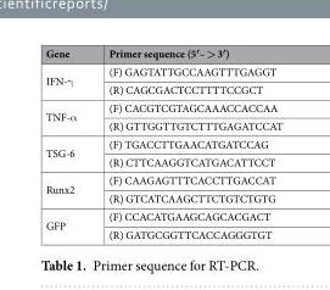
<table><thead><tr><td>Gene</td><td>Primer sequence (5′– &gt; 3′)</td></tr></thead><tbody><tr><td rowspan="2">IFN-γ</td><td>(F) GAGTATTGCCAAGTTTGAGGT</td></tr><tr><td>(R) CAGCGACTCCTTTTCCGCT</td></tr><tr><td rowspan="2">TNF-α</td><td>(F) CACGTCGTAGCAAACCACCAA</td></tr><tr><td>(R) GTTGGTTGTCTTTGAGATCCAT</td></tr><tr><td rowspan="2">TSG-6</td><td>(F) TGACCTTGAACATGATCCAG</td></tr><tr><td>(R) CTTCAAGGTCATGACATTCCT</td></tr><tr><td rowspan="2">Runx2</td><td>(F) CAAGAGTTTCACCTTGACCAT</td></tr><tr><td>(R) GTCATCAAGCTTCTGTCTGTG</td></tr><tr><td rowspan="2">GFP</td><td>(F) CCACATGAAGCAGCACGACT</td></tr><tr><td>(R) GATGCGGTTCACCAGGGTGT</td></tr></tbody></table>